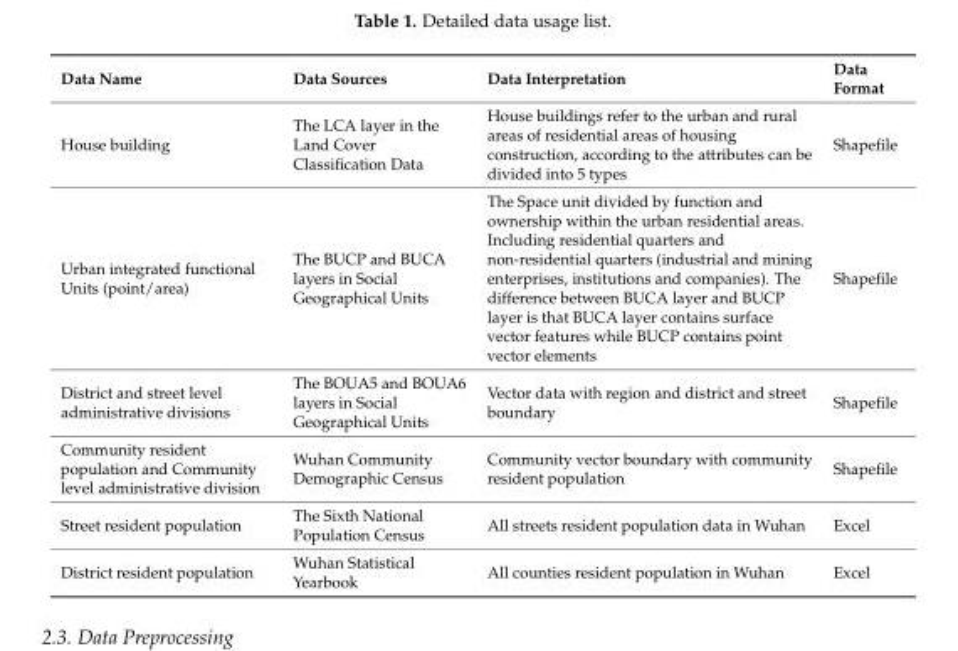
<table><thead><tr><td>Data Name</td><td>Data Sources</td><td>Data Interpretation</td><td>Data Format</td></tr></thead><tbody><tr><td>House building</td><td>The LCA layer in the Land Cover Classification Data</td><td>House buildings refer to the urban and rural areas of residential areas of housing construction, according to the attributes can be divided into 5 types</td><td>Shapefile</td></tr><tr><td>Urban integrated functional Units (point/area)</td><td>The BUCP and BUCA layers in Social Geographical Units</td><td>The Space unit divided by function and ownership within the urban residential areas. Including residential quarters and non-residential quarters (industrial and mining enterprises, institutions and companies). The difference between BUCA layer and BUCP layer is that BUCA layer contains surface vector features while BUCP contains point vector elements</td><td>Shapefile</td></tr><tr><td>District and street level administrative divisions</td><td>The BOUA5 and BOUA6 layers in Social Geographical Units</td><td>Vector data with region and district and street boundary</td><td>Shapefile</td></tr><tr><td>Community resident population and Community level administrative division</td><td>Wuhan Community Demographic Census</td><td>Community vector boundary with community resident population</td><td>Shapefile</td></tr><tr><td>Street resident population</td><td>The Sixth National Population Census</td><td>All streets resident population data in Wuhan</td><td>Excel</td></tr><tr><td>District resident population</td><td>Wuhan Statistical Yearbook</td><td>All counties resident population in Wuhan</td><td>Excel</td></tr></tbody></table>